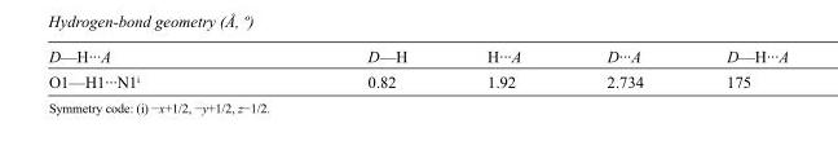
<table><tbody><tr><td>D—H···A</td><td>D—H</td><td>H···A</td><td>D···A</td><td>D—H···A</td></tr><tr><td>O1—H1···N1<sup>i</sup></td><td>0.82</td><td>1.92</td><td>2.734</td><td>175</td></tr></tbody></table>